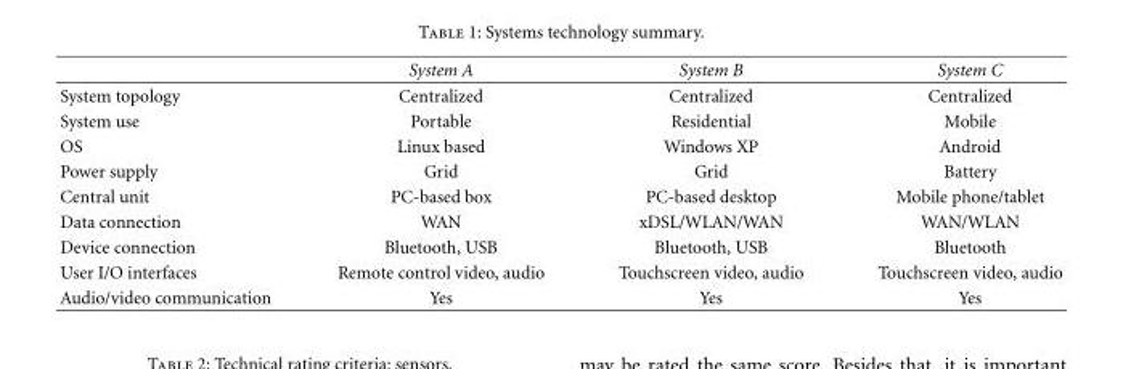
<table><thead><tr><td></td><td>System A</td><td>System B</td><td>System C</td></tr></thead><tbody><tr><td>System topology</td><td>Centralized</td><td>Centralized</td><td>Centralized</td></tr><tr><td>System use</td><td>Portable</td><td>Residential</td><td>Mobile</td></tr><tr><td>OS</td><td>Linux based</td><td>Windows XP</td><td>Android</td></tr><tr><td>Power supply</td><td>Grid</td><td>Grid</td><td>Battery</td></tr><tr><td>Central unit</td><td>PC-based box</td><td>PC-based desktop</td><td>Mobile phone/tablet</td></tr><tr><td>Data connection</td><td>WAN</td><td>xDSL/WLAN/WAN</td><td>WAN/WLAN</td></tr><tr><td>Device connection</td><td>Bluetooth, USB</td><td>Bluetooth, USB</td><td>Bluetooth</td></tr><tr><td>User I/O interfaces</td><td>Remote control video, audio</td><td>Touchscreen video, audio</td><td>Touchscreen video, audio</td></tr><tr><td>Audio/video communication</td><td>Yes</td><td>Yes</td><td>Yes</td></tr></tbody></table>